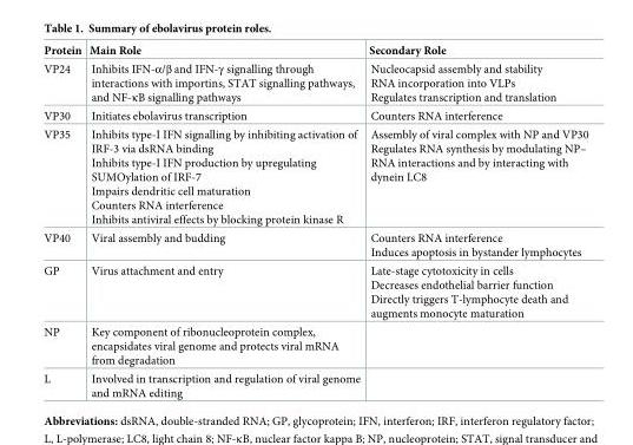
<table><thead><tr><td>Protein</td><td>Main Role</td><td>Secondary Role</td></tr></thead><tbody><tr><td>VP24</td><td>Inhibits IFN-α/β and IFN-γ signalling through interactions with importins, STAT signalling pathways, and NF-κB signalling pathways</td><td>Nucleocapsid assembly and stability RNA incorporation into VLPs Regulates transcription and translation</td></tr><tr><td>VP30</td><td>Initiates ebolavirus transcription</td><td>Counters RNA interference</td></tr><tr><td>VP35</td><td>Inhibits type-I IFN signalling by inhibiting activation of IRF-3 via dsRNA binding Inhibits type-I IFN production by upregulating SUMOylation of IRF-7 Impairs dendritic cell maturation Counters RNA interference Inhibits antiviral effects by blocking protein kinase R</td><td>Assembly of viral complex with NP and VP30 Regulates RNA synthesis by modulating NP– RNA interactions and by interacting with dynein LC8</td></tr><tr><td>VP40</td><td>Viral assembly and budding</td><td>Counters RNA interference Induces apoptosis in bystander lymphocytes</td></tr><tr><td>GP</td><td>Virus attachment and entry</td><td>Late-stage cytotoxicity in cells Decreases endothelial barrier function Directly triggers T-lymphocyte death and augments monocyte maturation</td></tr><tr><td>NP</td><td>Key component of ribonucleoprotein complex, encapsidates viral genome and protects viral mRNA from degradation</td><td></td></tr><tr><td>L</td><td>Involved in transcription and regulation of viral genome and mRNA editing</td><td></td></tr></tbody></table>